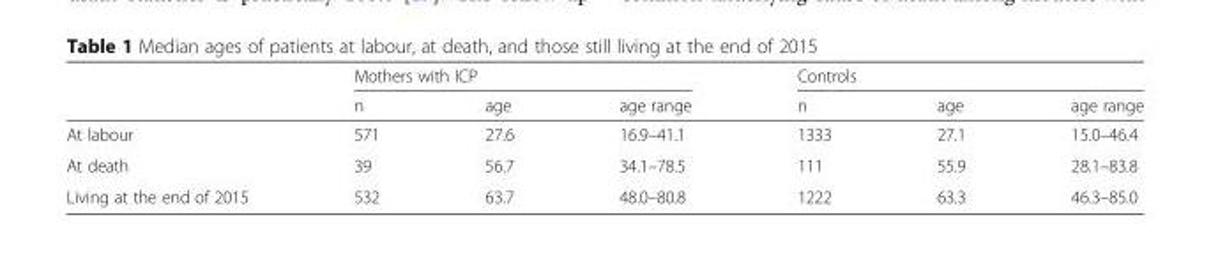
<table><thead><tr><td rowspan="2"></td><td colspan="3">Mothers with ICP</td><td colspan="3">Controls</td></tr><tr><td>n</td><td>age</td><td>age range</td><td>n</td><td>age</td><td>age range</td></tr></thead><tbody><tr><td>At labour</td><td>571</td><td>27.6</td><td>16.9–41.1</td><td>1333</td><td>27.1</td><td>15.0–46.4</td></tr><tr><td>At death</td><td>39</td><td>56.7</td><td>34.1–78.5</td><td>111</td><td>55.9</td><td>28.1–83.8</td></tr><tr><td>Living at the end of 2015</td><td>532</td><td>63.7</td><td>48.0–80.8</td><td>1222</td><td>63.3</td><td>46.3–85.0</td></tr></tbody></table>